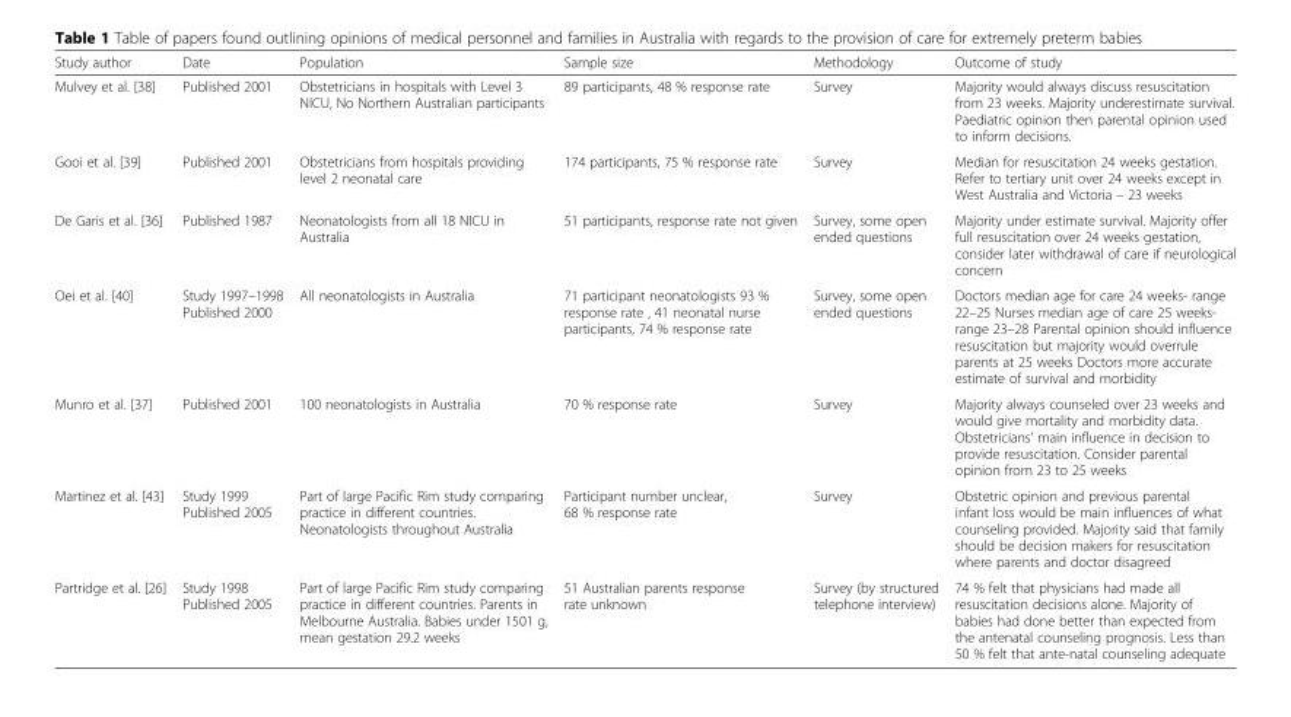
<table><thead><tr><td>Study author</td><td>Date</td><td>Population</td><td>Sample size</td><td>Methodology</td><td>Outcome of study</td></tr></thead><tbody><tr><td>Mulvey et al. [38]</td><td>Published 2001</td><td>Obstetricians in hospitals with Level 3 NICU, No Northern Australian participants</td><td>89 participants, 48 % response rate</td><td>Survey</td><td>Majority would always discuss resuscitation from 23 weeks. Majority underestimate survival. Paediatric opinion then parental opinion used to inform decisions.</td></tr><tr><td>Gooi et al. [39]</td><td>Published 2001</td><td>Obstetricians from hospitals providing level 2 neonatal care</td><td>174 participants, 75 % response rate</td><td>Survey</td><td>Median for resuscitation 24 weeks gestation. Refer to tertiary unit over 24 weeks except in West Australia and Victoria – 23 weeks</td></tr><tr><td>De Garis et al. [36]</td><td>Published 1987</td><td>Neonatologists from all 18 NICU in Australia</td><td>51 participants, response rate not given</td><td>Survey, some open ended questions</td><td>Majority under estimate survival. Majority offer full resuscitation over 24 weeks gestation, consider later withdrawal of care if neurological concern</td></tr><tr><td>Oei et al. [40]</td><td>Study 1997–1998 Published 2000</td><td>All neonatologists in Australia</td><td>71 participant neonatologists 93 % response rate , 41 neonatal nurse participants, 74 % response rate</td><td>Survey, some open ended questions</td><td>Doctors median age for care 24 weeks- range 22–25 Nurses median age of care 25 weeks- range 23–28 Parental opinion should influence resuscitation but majority would overrule parents at 25 weeks Doctors more accurate estimate of survival and morbidity</td></tr><tr><td>Munro et al. [37]</td><td>Published 2001</td><td>100 neonatologists in Australia</td><td>70 % response rate</td><td>Survey</td><td>Majority always counseled over 23 weeks and would give mortality and morbidity data. Obstetricians’ main influence in decision to provide resuscitation. Consider parental opinion from 23 to 25 weeks</td></tr><tr><td>Martinez et al. [43]</td><td>Study 1999 Published 2005</td><td>Part of large Pacific Rim study comparing practice in different countries. Neonatologists throughout Australia</td><td>Participant number unclear, 68 % response rate</td><td>Survey</td><td>Obstetric opinion and previous parental infant loss would be main influences of what counseling provided. Majority said that family should be decision makers for resuscitation where parents and doctor disagreed</td></tr><tr><td>Partridge et al. [26]</td><td>Study 1998 Published 2005</td><td>Part of large Pacific Rim study comparing practice in different countries. Parents in Melbourne Australia. Babies under 1501 g, mean gestation 29.2 weeks</td><td>51 Australian parents response rate unknown</td><td>Survey (by structured telephone interview)</td><td>74 % felt that physicians had made all resuscitation decisions alone. Majority of babies had done better than expected from the antenatal counseling prognosis. Less than 50 % felt that ante-natal counseling adequate</td></tr></tbody></table>